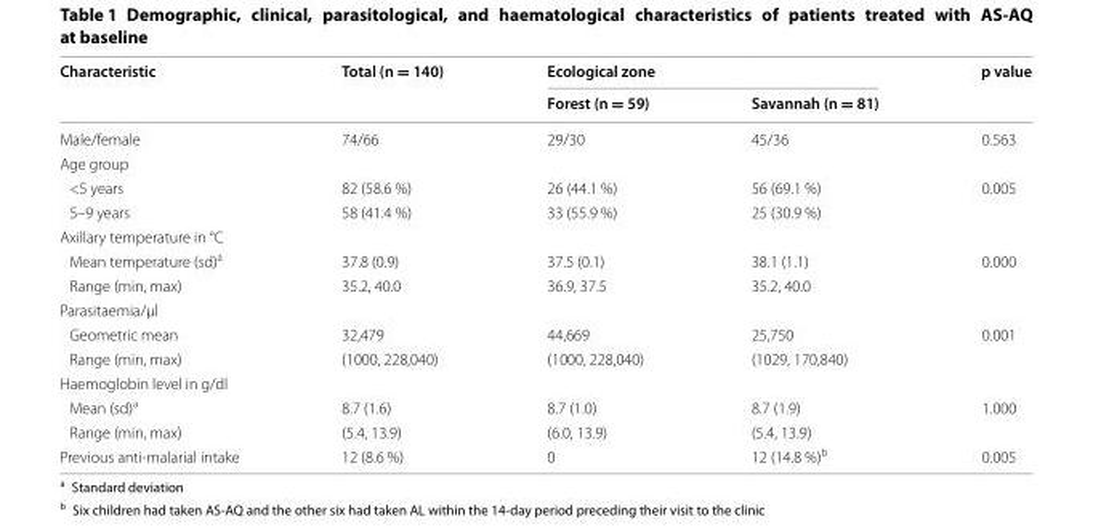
<table><thead><tr><td rowspan="2">Characteristic</td><td rowspan="2">Total (n = 140)</td><td colspan="2">Ecological zone</td><td rowspan="2">p value</td></tr><tr><td>Forest (n = 59)</td><td>Savannah (n = 81)</td></tr></thead><tbody><tr><td>Male/female</td><td>74/66</td><td>29/30</td><td>45/36</td><td>0.563</td></tr><tr><td colspan="5">Age group</td></tr><tr><td>&lt;5 years</td><td>82 (58.6 %)</td><td>26 (44.1 %)</td><td>56 (69.1 %)</td><td rowspan="2">0.005</td></tr><tr><td>5–9 years</td><td>58 (41.4 %)</td><td>33 (55.9 %)</td><td>25 (30.9 %)</td></tr><tr><td colspan="5">Axillary temperature in °C</td></tr><tr><td>Mean temperature (sd)<sup>a</sup></td><td>37.8 (0.9)</td><td>37.5 (0.1)</td><td>38.1 (1.1)</td><td rowspan="2">0.000</td></tr><tr><td>Range (min, max)</td><td>35.2, 40.0</td><td>36.9, 37.5</td><td>35.2, 40.0</td></tr><tr><td colspan="5">Parasitaemia/µl</td></tr><tr><td>Geometric mean</td><td>32,479</td><td>44,669</td><td>25,750</td><td rowspan="2">0.001</td></tr><tr><td>Range (min, max)</td><td>(1000, 228,040)</td><td>(1000, 228,040)</td><td>(1029, 170,840)</td></tr><tr><td colspan="5">Haemoglobin level in g/dl</td></tr><tr><td>Mean (sd)<sup>a</sup></td><td>8.7 (1.6)</td><td>8.7 (1.0)</td><td>8.7 (1.9)</td><td rowspan="2">1.000</td></tr><tr><td>Range (min, max)</td><td>(5.4, 13.9)</td><td>(6.0, 13.9)</td><td>(5.4, 13.9)</td></tr><tr><td>Previous anti‑malarial intake</td><td>12 (8.6 %)</td><td>0</td><td>12 (14.8 %)<sup>b</sup></td><td>0.005</td></tr></tbody></table>